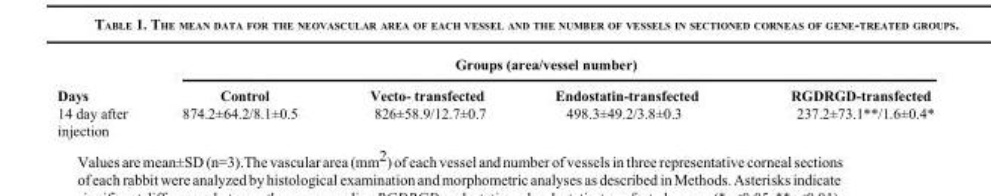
<table><thead><tr><td rowspan="2">Days</td><td colspan="4">Groups (area/vessel number)</td></tr><tr><td>Control</td><td>Vecto- transfected</td><td>Endostatin-transfected</td><td>RGDRGD-transfected</td></tr></thead><tbody><tr><td>14 day after injection</td><td>874.2±64.2/8.1±0.5</td><td>826±58.9/12.7±0.7</td><td>498.3±49.2/3.8±0.3</td><td>237.2±73.1**/1.6±0.4*</td></tr></tbody></table>